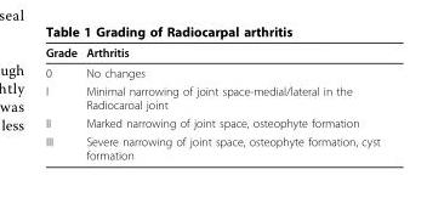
<table><thead><tr><td>Grade</td><td>Arthritis</td></tr></thead><tbody><tr><td>0</td><td>No changes</td></tr><tr><td>I</td><td>Minimal narrowing of joint space-medial/lateral in the Radiocaroal joint</td></tr><tr><td>II</td><td>Marked narrowing of joint space, osteophyte formation</td></tr><tr><td>III</td><td>Severe narrowing of joint space, osteophyte formation, cyst formation</td></tr></tbody></table>